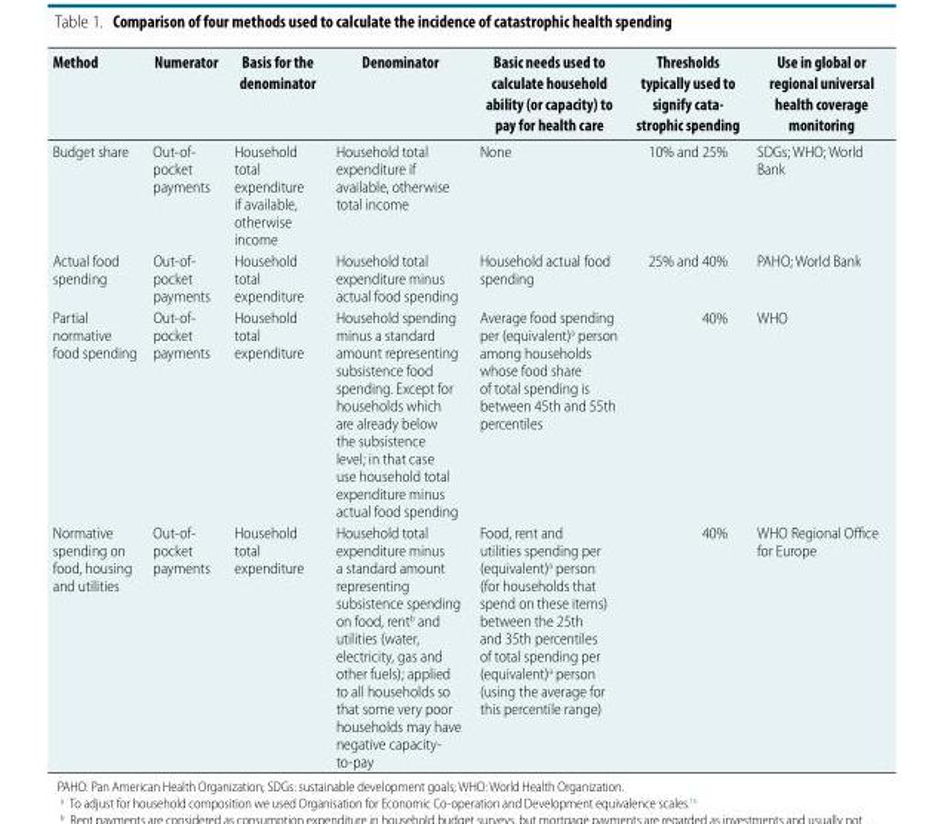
<table><thead><tr><td>Method</td><td>Numerator</td><td>Basis for the denominator</td><td>Denominator</td><td>Basic needs used to calculate household ability (or capacity) to pay for health care</td><td>Thresholds typically used to signify cata- strophic spending</td><td>Use in global or regional universal health coverage monitoring</td></tr></thead><tbody><tr><td>Budget share</td><td>Out-of- pocket payments</td><td>Household total expenditure if available, otherwise income</td><td>Household total expenditure if available, otherwise total income</td><td>None</td><td>10% and 25%</td><td>SDGs; WHO; World Bank</td></tr><tr><td>Actual food spending</td><td>Out-of- pocket payments</td><td>Household total expenditure</td><td>Household total expenditure minus actual food spending</td><td>Household actual food spending</td><td>25% and 40%</td><td>PAHO; World Bank</td></tr><tr><td>Partial normative food spending</td><td>Out-of- pocket payments</td><td>Household total expenditure</td><td>Household spending minus a standard amount representing subsistence food spending. Except for households which are already below the subsistence level; in that case use household total expenditure minus actual food spending</td><td>Average food spending per (equivalent)<sup>a</sup> person among households whose food share of total spending is between 45th and 55th percentiles</td><td>40%</td><td>WHO</td></tr><tr><td>Normative spending on food, housing and utilities</td><td>Out-of- pocket payments</td><td>Household total expenditure</td><td>Household total expenditure minus a standard amount representing subsistence spending on food, rent<sup>b</sup> and utilities (water, electricity, gas and other fuels); applied to all households so that some very poor households may have negative capacity- to-pay</td><td>Food, rent and utilities spending per (equivalent)<sup>a</sup> person (for households that spend on these items) between the 25th and 35th percentiles of total spending per (equivalent)<sup>a</sup> person (using the average for this percentile range)</td><td>40%</td><td>WHO Regional Office for Europe</td></tr></tbody></table>